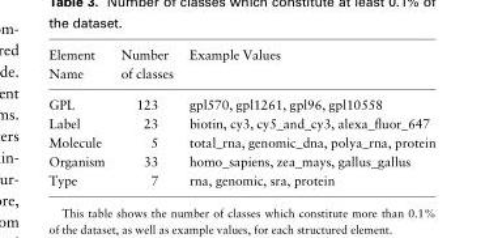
<table><thead><tr><td>Element Name</td><td>Number of classes</td><td>Example Values</td></tr></thead><tbody><tr><td>GPL</td><td>123</td><td>gpl570, gpl1261, gpl96, gpl10558</td></tr><tr><td>Label</td><td>23</td><td>biotin, cy3, cy5_and_cy3, alexa_fluor_647</td></tr><tr><td>Molecule</td><td>5</td><td>total_rna, genomic_dna, polya_rna, protein</td></tr><tr><td>Organism</td><td>33</td><td>homo_sapiens, zea_mays, gallus_gallus</td></tr><tr><td>Type</td><td>7</td><td>rna, genomic, sra, protein</td></tr></tbody></table>